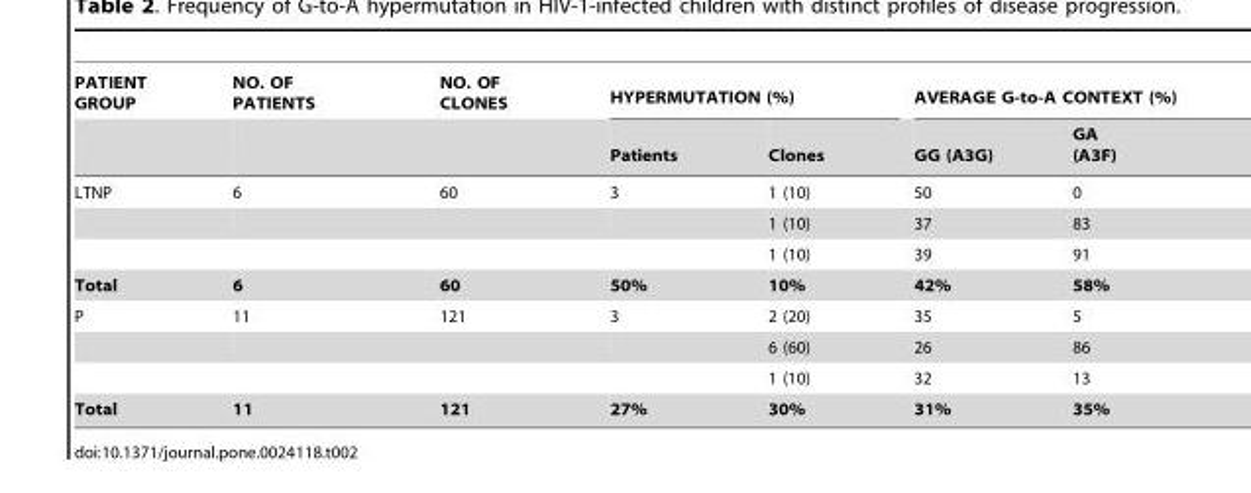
<table><thead><tr><td rowspan="2">PATIENT GROUP</td><td rowspan="2">NO. OF PATIENTS</td><td rowspan="2">NO. OF CLONES</td><td colspan="2">HYPERMUTATION (%)</td><td colspan="2">AVERAGE G-to-A CONTEXT (%)</td></tr><tr><td>Patients</td><td>Clones</td><td>GG (A3G)</td><td>GA (A3F)</td></tr></thead><tbody><tr><td rowspan="3">LTNP</td><td>6</td><td>60</td><td>3</td><td>1 (10)</td><td>50</td><td>0</td></tr><tr><td></td><td></td><td></td><td>1 (10)</td><td>37</td><td>83</td></tr><tr><td></td><td></td><td></td><td>1 (10)</td><td>39</td><td>91</td></tr><tr><td>Total</td><td>6</td><td>60</td><td>50%</td><td>10%</td><td>42%</td><td>58%</td></tr><tr><td rowspan="3">P</td><td>11</td><td>121</td><td>3</td><td>2 (20)</td><td>35</td><td>5</td></tr><tr><td></td><td></td><td></td><td>6 (60)</td><td>26</td><td>86</td></tr><tr><td></td><td></td><td></td><td>1 (10)</td><td>32</td><td>13</td></tr><tr><td>Total</td><td>11</td><td>121</td><td>27%</td><td>30%</td><td>31%</td><td>35%</td></tr></tbody></table>